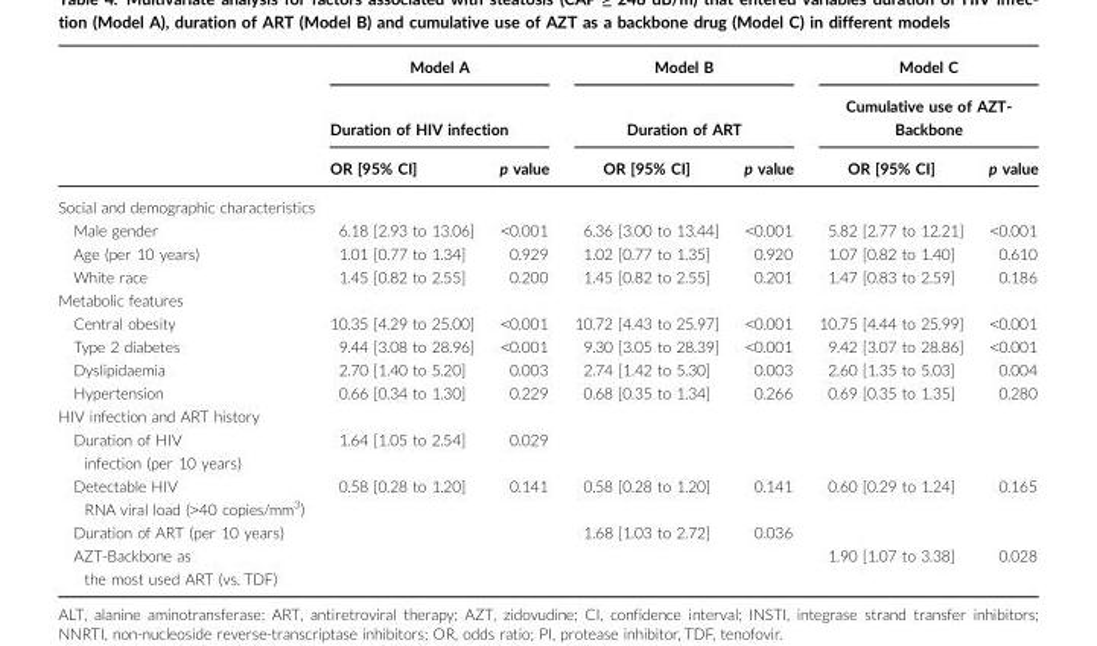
<table><thead><tr><td rowspan="3"></td><td rowspan="2" colspan="2">Model A Duration of HIV infection</td><td rowspan="2" colspan="2">Model B Duration of ART</td><td rowspan="2" colspan="2">Model C Cumulative use of AZT- Backbone</td></tr><tr></tr><tr><td>OR [95% CI]</td><td>p value</td><td>OR [95% CI]</td><td>p value</td><td>OR [95% CI]</td><td>p value</td></tr></thead><tbody><tr><td colspan="7">Social and demographic characteristics</td></tr><tr><td>Male gender</td><td>6.18 [2.93 to 13.06]</td><td>&lt;0.001</td><td>6.36 [3.00 to 13.44]</td><td>&lt;0.001</td><td>5.82 [2.77 to 12.21]</td><td>&lt;0.001</td></tr><tr><td>Age (per 10 years)</td><td>1.01 [0.77 to 1.34]</td><td>0.929</td><td>1.02 [0.77 to 1.35]</td><td>0.920</td><td>1.07 [0.82 to 1.40]</td><td>0.610</td></tr><tr><td>White race</td><td>1.45 [0.82 to 2.55]</td><td>0.200</td><td>1.45 [0.82 to 2.55]</td><td>0.201</td><td>1.47 [0.83 to 2.59]</td><td>0.186</td></tr><tr><td colspan="7">Metabolic features</td></tr><tr><td>Central obesity</td><td>10.35 [4.29 to 25.00]</td><td>&lt;0.001</td><td>10.72 [4.43 to 25.97]</td><td>&lt;0.001</td><td>10.75 [4.44 to 25.99]</td><td>&lt;0.001</td></tr><tr><td>Type 2 diabetes</td><td>9.44 [3.08 to 28.96]</td><td>&lt;0.001</td><td>9.30 [3.05 to 28.39]</td><td>&lt;0.001</td><td>9.42 [3.07 to 28.86]</td><td>&lt;0.001</td></tr><tr><td>Dyslipidaemia</td><td>2.70 [1.40 to 5.20]</td><td>0.003</td><td>2.74 [1.42 to 5.30]</td><td>0.003</td><td>2.60 [1.35 to 5.03]</td><td>0.004</td></tr><tr><td>Hypertension</td><td>0.66 [0.34 to 1.30]</td><td>0.229</td><td>0.68 [0.35 to 1.34]</td><td>0.266</td><td>0.69 [0.35 to 1.35]</td><td>0.280</td></tr><tr><td colspan="7">HIV infection and ART history</td></tr><tr><td>Duration of HIV infection (per 10 years)</td><td>1.64 [1.05 to 2.54]</td><td>0.029</td><td></td><td></td><td></td><td></td></tr><tr><td>Detectable HIV RNA viral load (&gt;40 copies/mm<sup>3</sup>)</td><td>0.58 [0.28 to 1.20]</td><td>0.141</td><td>0.58 [0.28 to 1.20]</td><td>0.141</td><td>0.60 [0.29 to 1.24]</td><td>0.165</td></tr><tr><td>Duration of ART (per 10 years)</td><td></td><td></td><td>1.68 [1.03 to 2.72]</td><td>0.036</td><td></td><td></td></tr><tr><td>AZT-Backbone as the most used ART (vs. TDF)</td><td></td><td></td><td></td><td></td><td>1.90 [1.07 to 3.38]</td><td>0.028</td></tr></tbody></table>